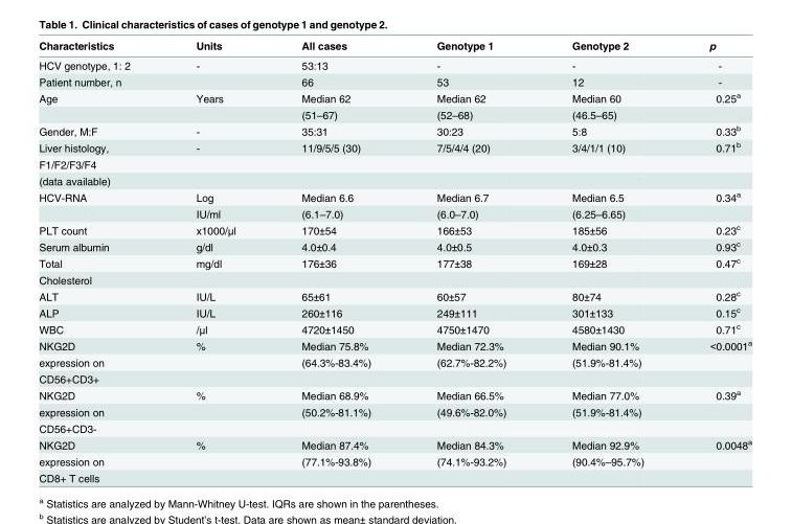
<table><thead><tr><td>Characteristics</td><td>Units</td><td>All cases</td><td>Genotype 1</td><td>Genotype 2</td><td>p</td></tr></thead><tbody><tr><td>HCV genotype, 1: 2</td><td>-</td><td>53:13</td><td>-</td><td>-</td><td>-</td></tr><tr><td>Patient number, n</td><td></td><td>66</td><td>53</td><td>12</td><td>-</td></tr><tr><td rowspan="2">Age</td><td>Years</td><td>Median 62</td><td>Median 62</td><td>Median 60</td><td>0.25<sup>a</sup></td></tr><tr><td></td><td>(51–67)</td><td>(52–68)</td><td>(46.5–65)</td><td></td></tr><tr><td>Gender, M:F</td><td>-</td><td>35:31</td><td>30:23</td><td>5:8</td><td>0.33<sup>b</sup></td></tr><tr><td>Liver histology,</td><td>-</td><td>11/9/5/5 (30)</td><td>7/5/4/4 (20)</td><td>3/4/1/1 (10)</td><td>0.71<sup>b</sup></td></tr><tr><td colspan="6">F1/F2/F3/F4</td></tr><tr><td colspan="6">(data available)</td></tr><tr><td rowspan="2">HCV-RNA</td><td>Log</td><td>Median 6.6</td><td>Median 6.7</td><td>Median 6.5</td><td>0.34<sup>a</sup></td></tr><tr><td>IU/ml</td><td>(6.1–7.0)</td><td>(6.0–7.0)</td><td>(6.25–6.65)</td><td></td></tr><tr><td>PLT count</td><td>x1000/μl</td><td>170±54</td><td>166±53</td><td>185±56</td><td>0.23<sup>c</sup></td></tr><tr><td>Serum albumin</td><td>g/dl</td><td>4.0±0.4</td><td>4.0±0.5</td><td>4.0±0.3</td><td>0.93<sup>c</sup></td></tr><tr><td>Total</td><td>mg/dl</td><td>176±36</td><td>177±38</td><td>169±28</td><td>0.47<sup>c</sup></td></tr><tr><td colspan="6">Cholesterol</td></tr><tr><td>ALT</td><td>IU/L</td><td>65±61</td><td>60±57</td><td>80±74</td><td>0.28<sup>c</sup></td></tr><tr><td>ALP</td><td>IU/L</td><td>260±116</td><td>249±111</td><td>301±133</td><td>0.15<sup>c</sup></td></tr><tr><td>WBC</td><td>/μl</td><td>4720±1450</td><td>4750±1470</td><td>4580±1430</td><td>0.71<sup>c</sup></td></tr><tr><td>NKG2D</td><td>%</td><td>Median 75.8%</td><td>Median 72.3%</td><td>Median 90.1%</td><td>&lt;0.0001<sup>a</sup></td></tr><tr><td>expression on</td><td></td><td>(64.3%-83.4%)</td><td>(62.7%-82.2%)</td><td>(51.9%-81.4%)</td><td></td></tr><tr><td colspan="6">CD56+CD3+</td></tr><tr><td>NKG2D</td><td>%</td><td>Median 68.9%</td><td>Median 66.5%</td><td>Median 77.0%</td><td>0.39<sup>a</sup></td></tr><tr><td>expression on</td><td></td><td>(50.2%-81.1%)</td><td>(49.6%-82.0%)</td><td>(51.9%-81.4%)</td><td></td></tr><tr><td colspan="6">CD56+CD3-</td></tr><tr><td>NKG2D</td><td>%</td><td>Median 87.4%</td><td>Median 84.3%</td><td>Median 92.9%</td><td>0.0048<sup>a</sup></td></tr><tr><td>expression on</td><td></td><td>(77.1%-93.8%)</td><td>(74.1%-93.2%)</td><td>(90.4%–95.7%)</td><td></td></tr><tr><td>CD8+ T cells</td><td></td><td></td><td></td><td></td><td></td></tr></tbody></table>